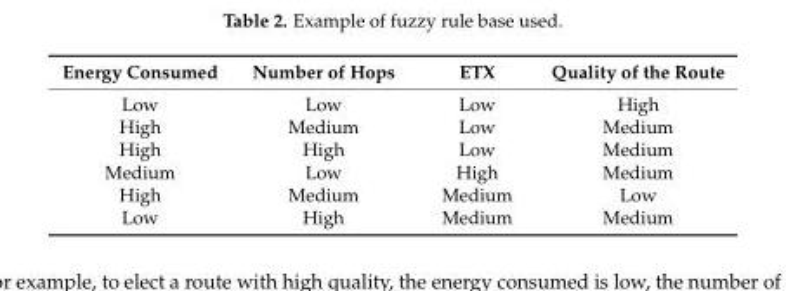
<table><thead><tr><td>Energy Consumed</td><td>Number of Hops</td><td>ETX</td><td>Quality of the Route</td></tr></thead><tbody><tr><td>Low</td><td>Low</td><td>Low</td><td>High</td></tr><tr><td>High</td><td>Medium</td><td>Low</td><td>Medium</td></tr><tr><td>High</td><td>High</td><td>Low</td><td>Medium</td></tr><tr><td>Medium</td><td>Low</td><td>High</td><td>Medium</td></tr><tr><td>High</td><td>Medium</td><td>Medium</td><td>Low</td></tr><tr><td>Low</td><td>High</td><td>Medium</td><td>Medium</td></tr></tbody></table>